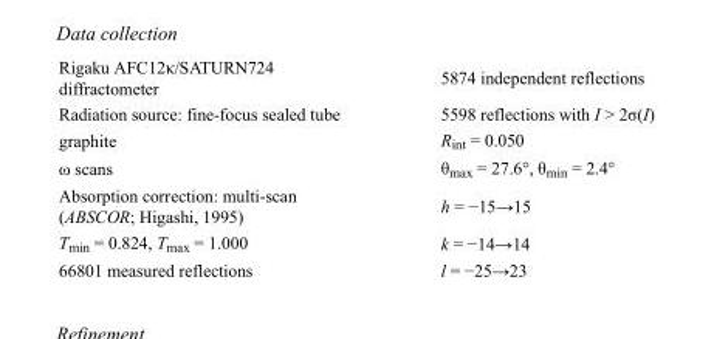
<table><tbody><tr><td>Rigaku AFC12κ/SATURN724 diffractometer</td><td>5874 independent reflections</td></tr><tr><td>Radiation source: fine-focus sealed tube</td><td>5598 reflections with I &gt; 2σ(I)</td></tr><tr><td>graphite</td><td>R<sub>int</sub> = 0.050</td></tr><tr><td>ω scans</td><td>θ<sub>max</sub> = 27.6°, θ<sub>min</sub> = 2.4°</td></tr><tr><td>Absorption correction: multi-scan (ABSCOR; Higashi, 1995)</td><td>h = −15→15</td></tr><tr><td>T<sub>min</sub> = 0.824, T<sub>max</sub> = 1.000</td><td>k = −14→14</td></tr><tr><td>66801 measured reflections</td><td>l = −25→23</td></tr></tbody></table>